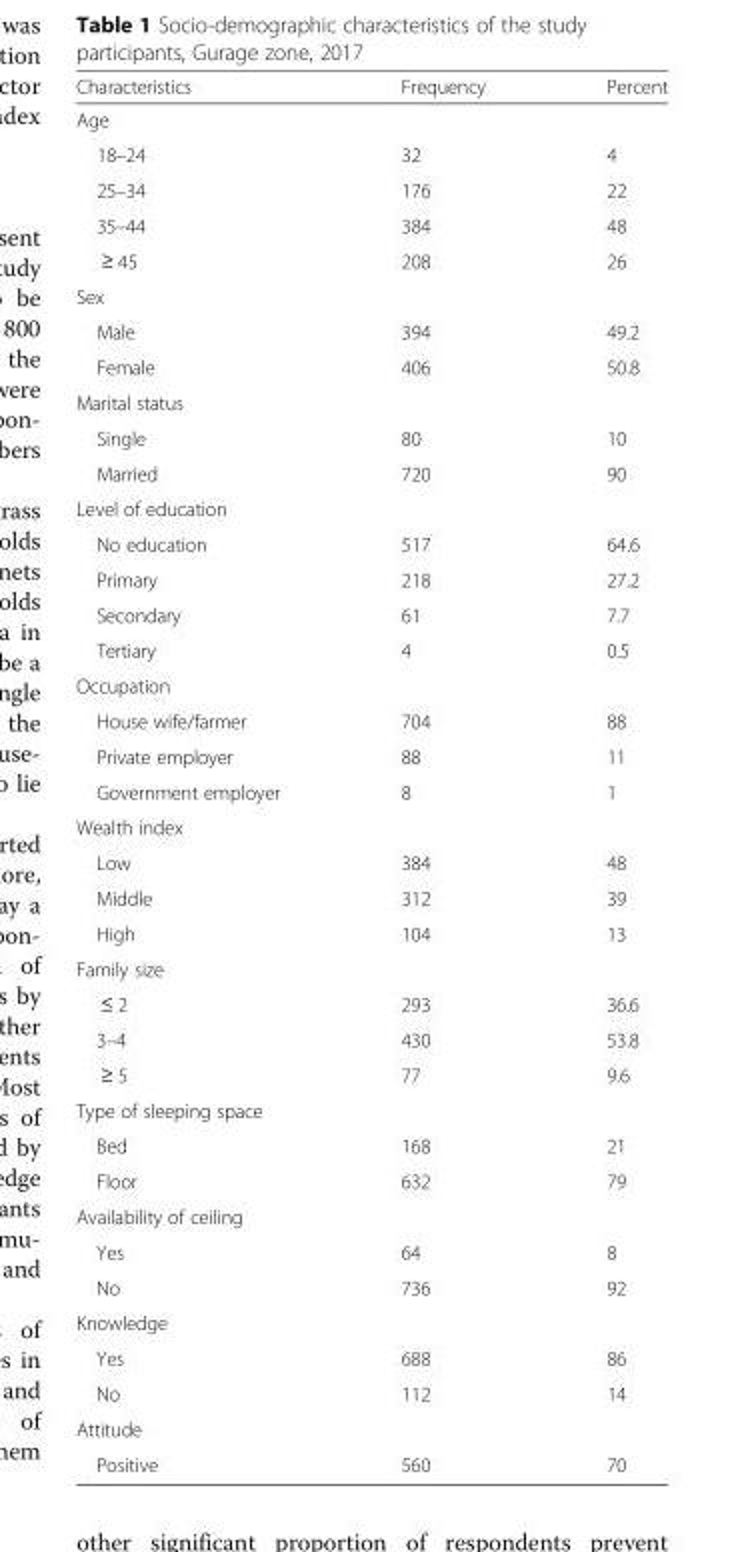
<table><thead><tr><td>Characteristics</td><td>Frequency</td><td>Percent</td></tr></thead><tbody><tr><td colspan="3">Age</td></tr><tr><td>18–24</td><td>32</td><td>4</td></tr><tr><td>25–34</td><td>176</td><td>22</td></tr><tr><td>35–44</td><td>384</td><td>48</td></tr><tr><td>≥ 45</td><td>208</td><td>26</td></tr><tr><td colspan="3">Sex</td></tr><tr><td>Male</td><td>394</td><td>49.2</td></tr><tr><td>Female</td><td>406</td><td>50.8</td></tr><tr><td colspan="3">Marital status</td></tr><tr><td>Single</td><td>80</td><td>10</td></tr><tr><td>Married</td><td>720</td><td>90</td></tr><tr><td colspan="3">Level of education</td></tr><tr><td>No education</td><td>517</td><td>64.6</td></tr><tr><td>Primary</td><td>218</td><td>27.2</td></tr><tr><td>Secondary</td><td>61</td><td>7.7</td></tr><tr><td>Tertiary</td><td>4</td><td>0.5</td></tr><tr><td colspan="3">Occupation</td></tr><tr><td>House wife/farmer</td><td>704</td><td>88</td></tr><tr><td>Private employer</td><td>88</td><td>11</td></tr><tr><td>Government employer</td><td>8</td><td>1</td></tr><tr><td colspan="3">Wealth index</td></tr><tr><td>Low</td><td>384</td><td>48</td></tr><tr><td>Middle</td><td>312</td><td>39</td></tr><tr><td>High</td><td>104</td><td>13</td></tr><tr><td colspan="3">Family size</td></tr><tr><td>≤ 2</td><td>293</td><td>36.6</td></tr><tr><td>3–4</td><td>430</td><td>53.8</td></tr><tr><td>≥ 5</td><td>77</td><td>9.6</td></tr><tr><td colspan="3">Type of sleeping space</td></tr><tr><td>Bed</td><td>168</td><td>21</td></tr><tr><td>Floor</td><td>632</td><td>79</td></tr><tr><td colspan="3">Availability of ceiling</td></tr><tr><td>Yes</td><td>64</td><td>8</td></tr><tr><td>No</td><td>736</td><td>92</td></tr><tr><td colspan="3">Knowledge</td></tr><tr><td>Yes</td><td>688</td><td>86</td></tr><tr><td>No</td><td>112</td><td>14</td></tr><tr><td colspan="3">Attitude</td></tr><tr><td>Positive</td><td>560</td><td>70</td></tr></tbody></table>